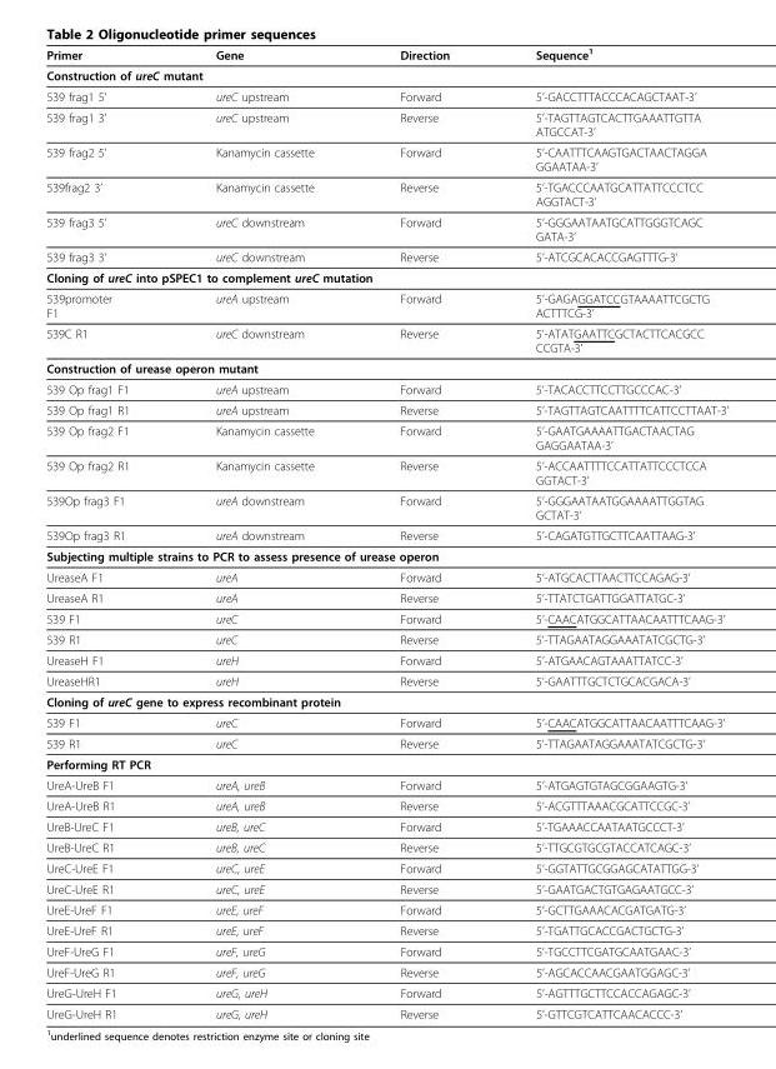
<table><thead><tr><td>Primer</td><td>Gene</td><td>Direction</td><td>Sequence<sup>1</sup></td></tr></thead><tbody><tr><td colspan="4">Construction of ureC mutant</td></tr><tr><td>539 frag1 5’</td><td>ureC upstream</td><td>Forward</td><td>5’-GACCTTTACCCACAGCTAAT-3’</td></tr><tr><td>539 frag1 3’</td><td>ureC upstream</td><td>Reverse</td><td>5’-TAGTTAGTCACTTGAAATTGTTA ATGCCAT-3’</td></tr><tr><td>539 frag2 5’</td><td>Kanamycin cassette</td><td>Forward</td><td>5’-CAATTTCAAGTGACTAACTAGGA GGAATAA-3’</td></tr><tr><td>539frag2 3’</td><td>Kanamycin cassette</td><td>Reverse</td><td>5’-TGACCCAATGCATTATTCCCTCC AGGTACT-3’</td></tr><tr><td>539 frag3 5’</td><td>ureC downstream</td><td>Forward</td><td>5’-GGGAATAATGCATTGGGTCAGC GATA-3’</td></tr><tr><td>539 frag3 3’</td><td>ureC downstream</td><td>Reverse</td><td>5’-ATCGCACACCGAGTTTG-3’</td></tr><tr><td colspan="4">Cloning of ureC into pSPEC1 to complement ureC mutation</td></tr><tr><td>539promoter F1</td><td>ureA upstream</td><td>Forward</td><td>5’-GAGAGGATCCGTAAAATTCGCTG ACTTTCG-3’</td></tr><tr><td>539C R1</td><td>ureC downstream</td><td>Reverse</td><td>5’-ATATGAATTCGCTACTTCACGCC CCGTA-3’</td></tr><tr><td colspan="4">Construction of urease operon mutant</td></tr><tr><td>539 Op frag1 F1</td><td>ureA upstream</td><td>Forward</td><td>5’-TACACCTTCCTTGCCCAC-3’</td></tr><tr><td>539 Op frag1 R1</td><td>ureA upstream</td><td>Reverse</td><td>5’-TAGTTAGTCAATTTTCATTCCTTAAT-3’</td></tr><tr><td>539 Op frag2 F1</td><td>Kanamycin cassette</td><td>Forward</td><td>5’-GAATGAAAATTGACTAACTAG GAGGAATAA-3’</td></tr><tr><td>539 Op frag2 R1</td><td>Kanamycin cassette</td><td>Reverse</td><td>5’-ACCAATTTTCCATTATTCCCTCCA GGTACT-3’</td></tr><tr><td>539Op frag3 F1</td><td>ureA downstream</td><td>Forward</td><td>5’-GGGAATAATGGAAAATTGGTAG GCTAT-3’</td></tr><tr><td>539Op frag3 R1</td><td>ureA downstream</td><td>Reverse</td><td>5’-CAGATGTTGCTTCAATTAAG-3’</td></tr><tr><td colspan="4">Subjecting multiple strains to PCR to assess presence of urease operon</td></tr><tr><td>UreaseA F1</td><td>ureA</td><td>Forward</td><td>5’-ATGCACTTAACTTCCAGAG-3’</td></tr><tr><td>UreaseA R1</td><td>ureA</td><td>Reverse</td><td>5’-TTATCTGATTGGATTATGC-3’</td></tr><tr><td>539 F1</td><td>ureC</td><td>Forward</td><td>5’-CAACATGGCATTAACAATTTCAAG-3’</td></tr><tr><td>539 R1</td><td>ureC</td><td>Reverse</td><td>5’-TTAGAATAGGAAATATCGCTG-3’</td></tr><tr><td>UreaseH F1</td><td>ureH</td><td>Forward</td><td>5’-ATGAACAGTAAATTATCC-3’</td></tr><tr><td>UreaseHR1</td><td>ureH</td><td>Reverse</td><td>5’-GAATTTGCTCTGCACGACA-3’</td></tr><tr><td colspan="4">Cloning of ureC gene to express recombinant protein</td></tr><tr><td>539 F1</td><td>ureC</td><td>Forward</td><td>5’-CAACATGGCATTAACAATTTCAAG-3’</td></tr><tr><td>539 R1</td><td>ureC</td><td>Reverse</td><td>5’-TTAGAATAGGAAATATCGCTG-3’</td></tr><tr><td colspan="4">Performing RT PCR</td></tr><tr><td>UreA-UreB F1</td><td>ureA, ureB</td><td>Forward</td><td>5’-ATGAGTGTAGCGGAAGTG-3’</td></tr><tr><td>UreA-UreB R1</td><td>ureA, ureB</td><td>Reverse</td><td>5’-ACGTTTAAACGCATTCCGC-3’</td></tr><tr><td>UreB-UreC F1</td><td>ureB, ureC</td><td>Forward</td><td>5’-TGAAACCAATAATGCCCT-3’</td></tr><tr><td>UreB-UreC R1</td><td>ureB, ureC</td><td>Reverse</td><td>5’-TTGCGTGCGTACCATCAGC-3’</td></tr><tr><td>UreC-UreE F1</td><td>ureC, ureE</td><td>Forward</td><td>5’-GGTATTGCGGAGCATATTGG-3’</td></tr><tr><td>UreC-UreE R1</td><td>ureC, ureE</td><td>Reverse</td><td>5’-GAATGACTGTGAGAATGCC-3’</td></tr><tr><td>UreE-UreF F1</td><td>ureE, ureF</td><td>Forward</td><td>5’-GCTTGAAACACGATGATG-3’</td></tr><tr><td>UreE-UreF R1</td><td>ureE, ureF</td><td>Reverse</td><td>5’-TGATTGCACCGACTGCTG-3’</td></tr><tr><td>UreF-UreG F1</td><td>ureF, ureG</td><td>Forward</td><td>5’-TGCCTTCGATGCAATGAAC-3’</td></tr><tr><td>UreF-UreG R1</td><td>ureF, ureG</td><td>Reverse</td><td>5’-AGCACCAACGAATGGAGC-3’</td></tr><tr><td>UreG-UreH F1</td><td>ureG, ureH</td><td>Forward</td><td>5’-AGTTTGCTTCCACCAGAGC-3’</td></tr><tr><td>UreG-UreH R1</td><td>ureG, ureH</td><td>Reverse</td><td>5’-GTTCGTCATTCAACACCC-3’</td></tr></tbody></table>